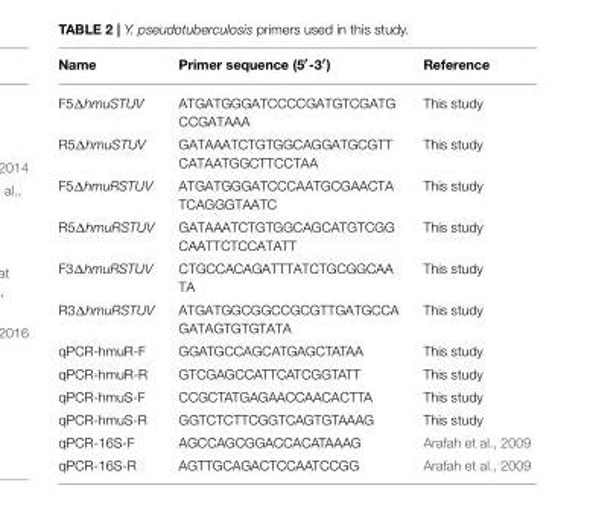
<table><thead><tr><td>Name</td><td>Primer sequence (5′-3′)</td><td>Reference</td></tr></thead><tbody><tr><td>F5ΔhmuSTUV</td><td>ATGATGGGATCCCCGATGTCGATG CCGATAAA</td><td>This study</td></tr><tr><td>R5ΔhmuSTUV</td><td>GATAAATCTGTGGCAGGATGCGTT CATAATGGCTTCCTAA</td><td>This study</td></tr><tr><td>F5ΔhmuRSTUV</td><td>ATGATGGGATCCCAATGCGAACTA TCAGGGTAATC</td><td>This study</td></tr><tr><td>R5ΔhmuRSTUV</td><td>GATAAATCTGTGGCAGCATGTCGG CAATTCTCCATATT</td><td>This study</td></tr><tr><td>F3ΔhmuRSTUV</td><td>CTGCCACAGATTTATCTGCGGCAA TA</td><td>This study</td></tr><tr><td>R3ΔhmuRSTUV</td><td>ATGATGGCGGCCGCGTTGATGCCA GATAGTGTGTATA</td><td>This study</td></tr><tr><td>qPCR-hmuR-F</td><td>GGATGCCAGCATGAGCTATAA</td><td>This study</td></tr><tr><td>qPCR-hmuR-R</td><td>GTCGAGCCATTCATCGGTATT</td><td>This study</td></tr><tr><td>qPCR-hmuS-F</td><td>CCGCTATGAGAACCAACACTTA</td><td>This study</td></tr><tr><td>qPCR-hmuS-R</td><td>GGTCTCTTCGGTCAGTGTAAAG</td><td>This study</td></tr><tr><td>qPCR-16S-F</td><td>AGCCAGCGGACCACATAAAG</td><td>Arafah et al., 2009</td></tr><tr><td>qPCR-16S-R</td><td>AGTTGCAGACTCCAATCCGG</td><td>Arafah et al., 2009</td></tr></tbody></table>